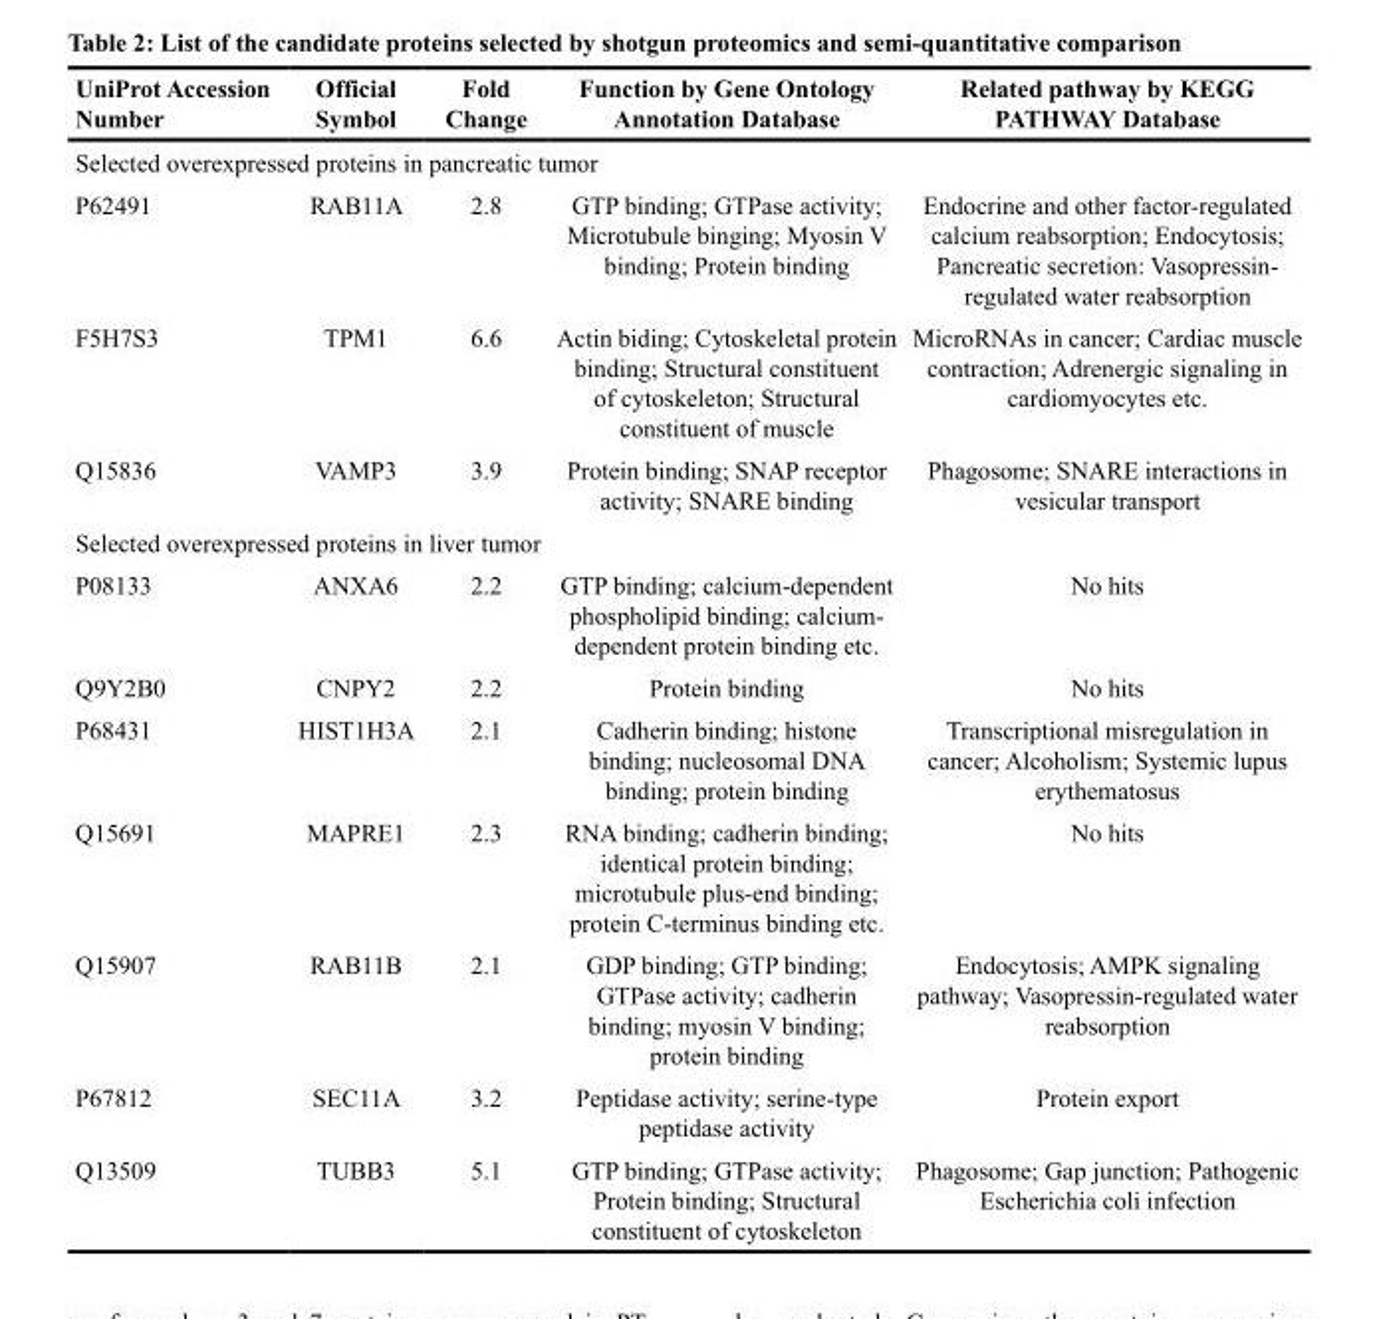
<table><thead><tr><td>UniProt Accession Number</td><td>Official Symbol</td><td>Fold Change</td><td>Function by Gene Ontology Annotation Database</td><td>Related pathway by KEGG PATHWAY Database</td></tr></thead><tbody><tr><td colspan="5">Selected overexpressed proteins in pancreatic tumor</td></tr><tr><td>P62491</td><td>RAB11A</td><td>2.8</td><td>GTP binding; GTPase activity; Microtubule binging; Myosin V binding; Protein binding</td><td>Endocrine and other factor-regulated calcium reabsorption; Endocytosis; Pancreatic secretion: Vasopressin- regulated water reabsorption</td></tr><tr><td>F5H7S3</td><td>TPM1</td><td>6.6</td><td>Actin biding; Cytoskeletal protein binding; Structural constituent of cytoskeleton; Structural constituent of muscle</td><td>MicroRNAs in cancer; Cardiac muscle contraction; Adrenergic signaling in cardiomyocytes etc.</td></tr><tr><td>Q15836</td><td>VAMP3</td><td>3.9</td><td>Protein binding; SNAP receptor activity; SNARE binding</td><td>Phagosome; SNARE interactions in vesicular transport</td></tr><tr><td colspan="5">Selected overexpressed proteins in liver tumor</td></tr><tr><td>P08133</td><td>ANXA6</td><td>2.2</td><td>GTP binding; calcium-dependent phospholipid binding; calcium- dependent protein binding etc.</td><td>No hits</td></tr><tr><td>Q9Y2B0</td><td>CNPY2</td><td>2.2</td><td>Protein binding</td><td>No hits</td></tr><tr><td>P68431</td><td>HIST1H3A</td><td>2.1</td><td>Cadherin binding; histone binding; nucleosomal DNA binding; protein binding</td><td>Transcriptional misregulation in cancer; Alcoholism; Systemic lupus erythematosus</td></tr><tr><td>Q15691</td><td>MAPRE1</td><td>2.3</td><td>RNA binding; cadherin binding; identical protein binding; microtubule plus-end binding; protein C-terminus binding etc.</td><td>No hits</td></tr><tr><td>Q15907</td><td>RAB11B</td><td>2.1</td><td>GDP binding; GTP binding; GTPase activity; cadherin binding; myosin V binding; protein binding</td><td>Endocytosis; AMPK signaling pathway; Vasopressin-regulated water reabsorption</td></tr><tr><td>P67812</td><td>SEC11A</td><td>3.2</td><td>Peptidase activity; serine-type peptidase activity</td><td>Protein export</td></tr><tr><td>Q13509</td><td>TUBB3</td><td>5.1</td><td>GTP binding; GTPase activity; Protein binding; Structural constituent of cytoskeleton</td><td>Phagosome; Gap junction; Pathogenic Escherichia coli infection</td></tr></tbody></table>